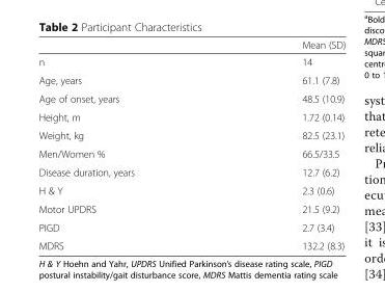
<table><thead><tr><td></td><td>Mean (SD)</td></tr></thead><tbody><tr><td>n</td><td>14</td></tr><tr><td>Age, years</td><td>61.1 (7.8)</td></tr><tr><td>Age of onset, years</td><td>48.5 (10.9)</td></tr><tr><td>Height, m</td><td>1.72 (0.14)</td></tr><tr><td>Weight, kg</td><td>82.5 (23.1)</td></tr><tr><td>Men/Women %</td><td>66.5/33.5</td></tr><tr><td>Disease duration, years</td><td>12.7 (6.2)</td></tr><tr><td>H &amp; Y</td><td>2.3 (0.6)</td></tr><tr><td>Motor UPDRS</td><td>21.5 (9.2)</td></tr><tr><td>PIGD</td><td>2.7 (3.4)</td></tr><tr><td>MDRS</td><td>132.2 (8.3)</td></tr></tbody></table>